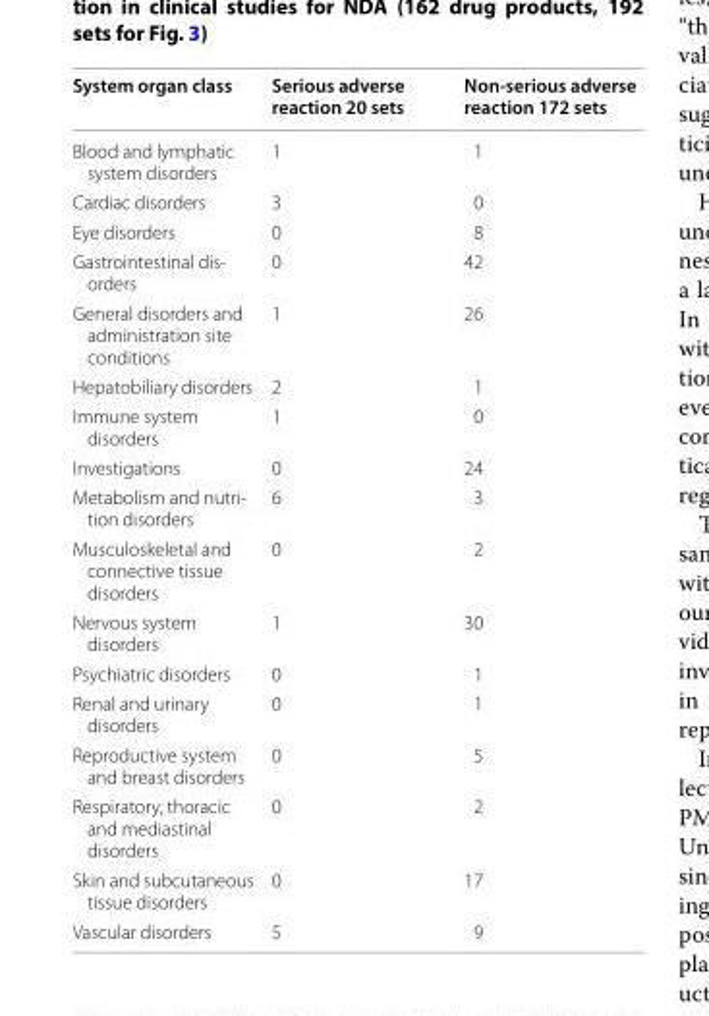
<table><thead><tr><td>System organ class</td><td>Serious adverse reaction 20 sets</td><td>Non‑serious adverse reaction 172 sets</td></tr></thead><tbody><tr><td>Blood and lymphatic system disorders</td><td>1</td><td>1</td></tr><tr><td>Cardiac disorders</td><td>3</td><td>0</td></tr><tr><td>Eye disorders</td><td>0</td><td>8</td></tr><tr><td>Gastrointestinal dis- orders</td><td>0</td><td>42</td></tr><tr><td>General disorders and administration site conditions</td><td>1</td><td>26</td></tr><tr><td>Hepatobiliary disorders</td><td>2</td><td>1</td></tr><tr><td>Immune system disorders</td><td>1</td><td>0</td></tr><tr><td>Investigations</td><td>0</td><td>24</td></tr><tr><td>Metabolism and nutri- tion disorders</td><td>6</td><td>3</td></tr><tr><td>Musculoskeletal and connective tissue disorders</td><td>0</td><td>2</td></tr><tr><td>Nervous system disorders</td><td>1</td><td>30</td></tr><tr><td>Psychiatric disorders</td><td>0</td><td>1</td></tr><tr><td>Renal and urinary disorders</td><td>0</td><td>1</td></tr><tr><td>Reproductive system and breast disorders</td><td>0</td><td>5</td></tr><tr><td>Respiratory, thoracic and mediastinal disorders</td><td>0</td><td>2</td></tr><tr><td>Skin and subcutaneous tissue disorders</td><td>0</td><td>17</td></tr><tr><td>Vascular disorders</td><td>5</td><td>9</td></tr></tbody></table>